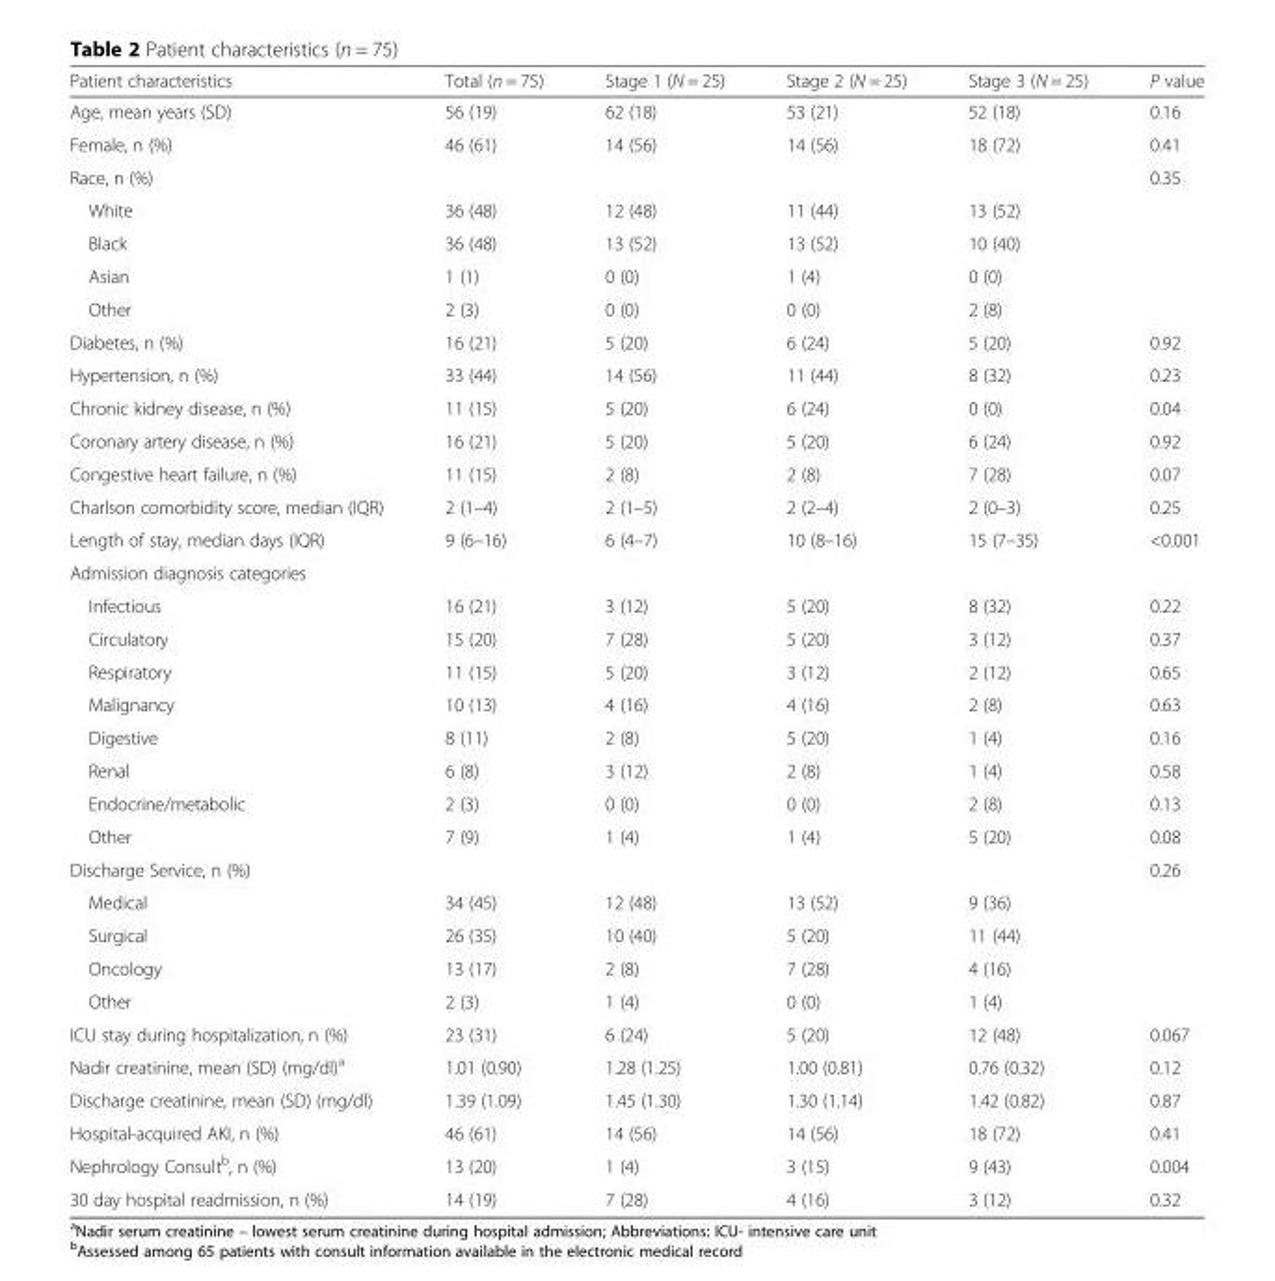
<table><thead><tr><td>Patient characteristics</td><td>Total (n = 75)</td><td>Stage 1 (N = 25)</td><td>Stage 2 (N = 25)</td><td>Stage 3 (N = 25)</td><td>P value</td></tr></thead><tbody><tr><td>Age, mean years (SD)</td><td>56 (19)</td><td>62 (18)</td><td>53 (21)</td><td>52 (18)</td><td>0.16</td></tr><tr><td>Female, n (%)</td><td>46 (61)</td><td>14 (56)</td><td>14 (56)</td><td>18 (72)</td><td>0.41</td></tr><tr><td>Race, n (%)</td><td></td><td></td><td></td><td></td><td>0.35</td></tr><tr><td>White</td><td>36 (48)</td><td>12 (48)</td><td>11 (44)</td><td>13 (52)</td><td></td></tr><tr><td>Black</td><td>36 (48)</td><td>13 (52)</td><td>13 (52)</td><td>10 (40)</td><td></td></tr><tr><td>Asian</td><td>1 (1)</td><td>0 (0)</td><td>1 (4)</td><td>0 (0)</td><td></td></tr><tr><td>Other</td><td>2 (3)</td><td>0 (0)</td><td>0 (0)</td><td>2 (8)</td><td></td></tr><tr><td>Diabetes, n (%)</td><td>16 (21)</td><td>5 (20)</td><td>6 (24)</td><td>5 (20)</td><td>0.92</td></tr><tr><td>Hypertension, n (%)</td><td>33 (44)</td><td>14 (56)</td><td>11 (44)</td><td>8 (32)</td><td>0.23</td></tr><tr><td>Chronic kidney disease, n (%)</td><td>11 (15)</td><td>5 (20)</td><td>6 (24)</td><td>0 (0)</td><td>0.04</td></tr><tr><td>Coronary artery disease, n (%)</td><td>16 (21)</td><td>5 (20)</td><td>5 (20)</td><td>6 (24)</td><td>0.92</td></tr><tr><td>Congestive heart failure, n (%)</td><td>11 (15)</td><td>2 (8)</td><td>2 (8)</td><td>7 (28)</td><td>0.07</td></tr><tr><td>Charlson comorbidity score, median (IQR)</td><td>2 (1–4)</td><td>2 (1–5)</td><td>2 (2–4)</td><td>2 (0–3)</td><td>0.25</td></tr><tr><td>Length of stay, median days (IQR)</td><td>9 (6–16)</td><td>6 (4–7)</td><td>10 (8–16)</td><td>15 (7–35)</td><td>&lt;0.001</td></tr><tr><td colspan="6">Admission diagnosis categories</td></tr><tr><td>Infectious</td><td>16 (21)</td><td>3 (12)</td><td>5 (20)</td><td>8 (32)</td><td>0.22</td></tr><tr><td>Circulatory</td><td>15 (20)</td><td>7 (28)</td><td>5 (20)</td><td>3 (12)</td><td>0.37</td></tr><tr><td>Respiratory</td><td>11 (15)</td><td>5 (20)</td><td>3 (12)</td><td>2 (12)</td><td>0.65</td></tr><tr><td>Malignancy</td><td>10 (13)</td><td>4 (16)</td><td>4 (16)</td><td>2 (8)</td><td>0.63</td></tr><tr><td>Digestive</td><td>8 (11)</td><td>2 (8)</td><td>5 (20)</td><td>1 (4)</td><td>0.16</td></tr><tr><td>Renal</td><td>6 (8)</td><td>3 (12)</td><td>2 (8)</td><td>1 (4)</td><td>0.58</td></tr><tr><td>Endocrine/metabolic</td><td>2 (3)</td><td>0 (0)</td><td>0 (0)</td><td>2 (8)</td><td>0.13</td></tr><tr><td>Other</td><td>7 (9)</td><td>1 (4)</td><td>1 (4)</td><td>5 (20)</td><td>0.08</td></tr><tr><td>Discharge Service, n (%)</td><td></td><td></td><td></td><td></td><td>0.26</td></tr><tr><td>Medical</td><td>34 (45)</td><td>12 (48)</td><td>13 (52)</td><td>9 (36)</td><td></td></tr><tr><td>Surgical</td><td>26 (35)</td><td>10 (40)</td><td>5 (20)</td><td>11 (44)</td><td></td></tr><tr><td>Oncology</td><td>13 (17)</td><td>2 (8)</td><td>7 (28)</td><td>4 (16)</td><td></td></tr><tr><td>Other</td><td>2 (3)</td><td>1 (4)</td><td>0 (0)</td><td>1 (4)</td><td></td></tr><tr><td>ICU stay during hospitalization, n (%)</td><td>23 (31)</td><td>6 (24)</td><td>5 (20)</td><td>12 (48)</td><td>0.067</td></tr><tr><td>Nadir creatinine, mean (SD) (mg/dl)<sup>a</sup></td><td>1.01 (0.90)</td><td>1.28 (1.25)</td><td>1.00 (0.81)</td><td>0.76 (0.32)</td><td>0.12</td></tr><tr><td>Discharge creatinine, mean (SD) (mg/dl)</td><td>1.39 (1.09)</td><td>1.45 (1.30)</td><td>1.30 (1.14)</td><td>1.42 (0.82)</td><td>0.87</td></tr><tr><td>Hospital-acquired AKI, n (%)</td><td>46 (61)</td><td>14 (56)</td><td>14 (56)</td><td>18 (72)</td><td>0.41</td></tr><tr><td>Nephrology Consult<sup>b</sup>, n (%)</td><td>13 (20)</td><td>1 (4)</td><td>3 (15)</td><td>9 (43)</td><td>0.004</td></tr><tr><td>30 day hospital readmission, n (%)</td><td>14 (19)</td><td>7 (28)</td><td>4 (16)</td><td>3 (12)</td><td>0.32</td></tr></tbody></table>